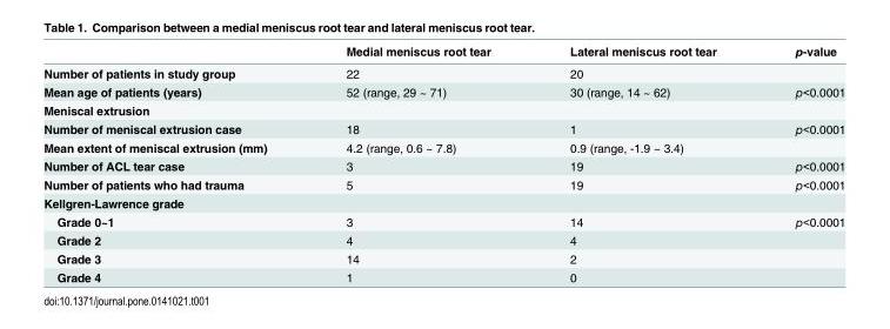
<table><thead><tr><td></td><td>Medial meniscus root tear</td><td>Lateral meniscus root tear</td><td>p-value</td></tr></thead><tbody><tr><td>Number of patients in study group</td><td>22</td><td>20</td><td></td></tr><tr><td>Mean age of patients (years)</td><td>52 (range, 29 ~ 71)</td><td>30 (range, 14 ~ 62)</td><td>p&lt;0.0001</td></tr><tr><td colspan="4">Meniscal extrusion</td></tr><tr><td>Number of meniscal extrusion case</td><td>18</td><td>1</td><td>p&lt;0.0001</td></tr><tr><td>Mean extent of meniscal extrusion (mm)</td><td>4.2 (range, 0.6 ~ 7.8)</td><td>0.9 (range, -1.9 ~ 3.4)</td><td></td></tr><tr><td>Number of ACL tear case</td><td>3</td><td>19</td><td>p&lt;0.0001</td></tr><tr><td>Number of patients who had trauma</td><td>5</td><td>19</td><td>p&lt;0.0001</td></tr><tr><td colspan="4">Kellgren-Lawrence grade</td></tr><tr><td>Grade 0~1</td><td>3</td><td>14</td><td>p&lt;0.0001</td></tr><tr><td>Grade 2</td><td>4</td><td>4</td><td></td></tr><tr><td>Grade 3</td><td>14</td><td>2</td><td></td></tr><tr><td>Grade 4</td><td>1</td><td>0</td><td></td></tr></tbody></table>